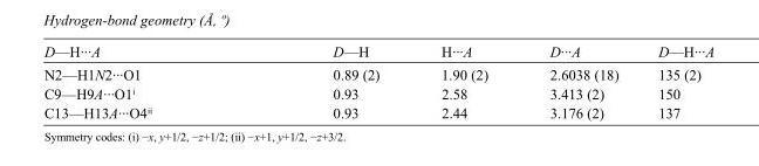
<table><tbody><tr><td>D—H···A</td><td>D—H</td><td>H···A</td><td>D···A</td><td>D—H···A</td></tr><tr><td>N2—H1N2···O1</td><td>0.89 (2)</td><td>1.90 (2)</td><td>2.6038 (18)</td><td>135 (2)</td></tr><tr><td>C9—H9A···O1<sup>i</sup></td><td>0.93</td><td>2.58</td><td>3.413 (2)</td><td>150</td></tr><tr><td>C13—H13A···O4<sup>ii</sup></td><td>0.93</td><td>2.44</td><td>3.176 (2)</td><td>137</td></tr></tbody></table>